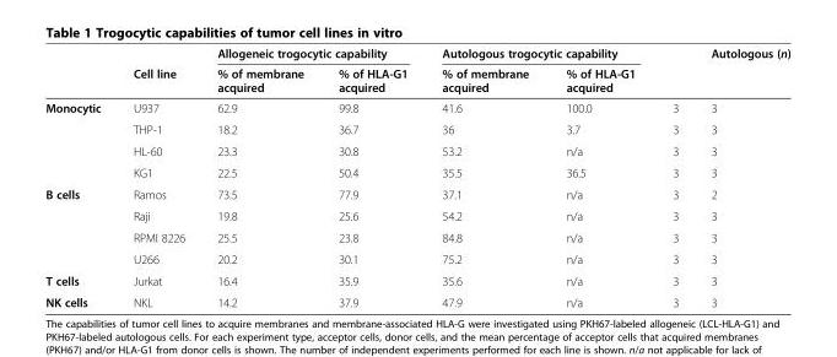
<table><thead><tr><td rowspan="2"></td><td rowspan="2">Cell line</td><td colspan="2">Allogeneic trogocytic capability</td><td colspan="2">Autologous trogocytic capability</td><td rowspan="2"></td><td rowspan="2">Autologous (n)</td></tr><tr><td>% of membrane acquired</td><td>% of HLA-G1 acquired</td><td>% of membrane acquired</td><td>% of HLA-G1 acquired</td></tr></thead><tbody><tr><td rowspan="4">Monocytic</td><td>U937</td><td>62.9</td><td>99.8</td><td>41.6</td><td>100.0</td><td>3</td><td>3</td></tr><tr><td>THP-1</td><td>18.2</td><td>36.7</td><td>36</td><td>3.7</td><td>3</td><td>3</td></tr><tr><td>HL-60</td><td>23.3</td><td>30.8</td><td>53.2</td><td>n/a</td><td>3</td><td>3</td></tr><tr><td>KG1</td><td>22.5</td><td>50.4</td><td>35.5</td><td>36.5</td><td>3</td><td>3</td></tr><tr><td rowspan="4">B cells</td><td>Ramos</td><td>73.5</td><td>77.9</td><td>37.1</td><td>n/a</td><td>3</td><td>2</td></tr><tr><td>Raji</td><td>19.8</td><td>25.6</td><td>54.2</td><td>n/a</td><td>3</td><td>3</td></tr><tr><td>RPMI 8226</td><td>25.5</td><td>23.8</td><td>84.8</td><td>n/a</td><td>3</td><td>3</td></tr><tr><td>U266</td><td>20.2</td><td>30.1</td><td>75.2</td><td>n/a</td><td>3</td><td>3</td></tr><tr><td>T cells</td><td>Jurkat</td><td>16.4</td><td>35.9</td><td>35.6</td><td>n/a</td><td>3</td><td>3</td></tr><tr><td>NK cells</td><td>NKL</td><td>14.2</td><td>37.9</td><td>47.9</td><td>n/a</td><td>3</td><td>3</td></tr></tbody></table>